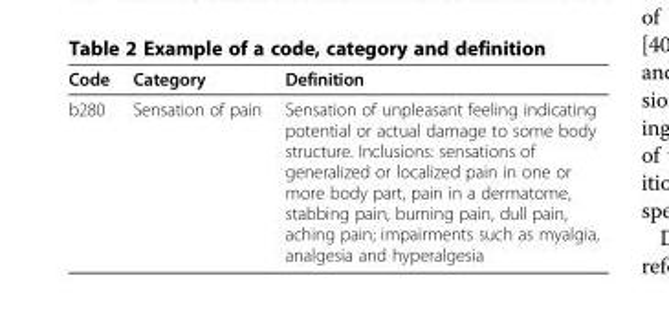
<table><thead><tr><td>Code</td><td>Category</td><td>Definition</td></tr></thead><tbody><tr><td>b280</td><td>Sensation of pain</td><td>Sensation of unpleasant feeling indicating potential or actual damage to some body structure. Inclusions: sensations of generalized or localized pain in one or more body part, pain in a dermatome, stabbing pain, burning pain, dull pain, aching pain; impairments such as myalgia, analgesia and hyperalgesia</td></tr></tbody></table>